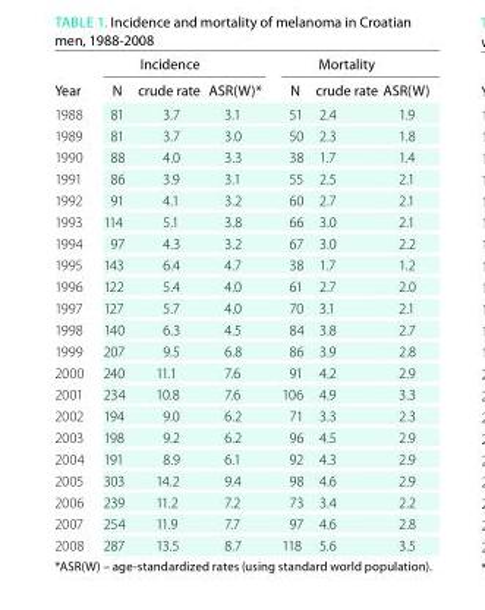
<table><thead><tr><td rowspan="2">Year</td><td colspan="3">incidence</td><td colspan="3">Mortality</td></tr><tr><td>n</td><td>crude rate</td><td>Asr(W)*</td><td>n</td><td>crude rate</td><td>Asr(W)</td></tr></thead><tbody><tr><td>1988</td><td>81</td><td>3.7</td><td>3.1</td><td>51</td><td>2.4</td><td>1.9</td></tr><tr><td>1989</td><td>81</td><td>3.7</td><td>3.0</td><td>50</td><td>2.3</td><td>1.8</td></tr><tr><td>1990</td><td>88</td><td>4.0</td><td>3.3</td><td>38</td><td>1.7</td><td>1.4</td></tr><tr><td>1991</td><td>86</td><td>3.9</td><td>3.1</td><td>55</td><td>2.5</td><td>2.1</td></tr><tr><td>1992</td><td>91</td><td>4.1</td><td>3.2</td><td>60</td><td>2.7</td><td>2.1</td></tr><tr><td>1993</td><td>114</td><td>5.1</td><td>3.8</td><td>66</td><td>3.0</td><td>2.1</td></tr><tr><td>1994</td><td>97</td><td>4.3</td><td>3.2</td><td>67</td><td>3.0</td><td>2.2</td></tr><tr><td>1995</td><td>143</td><td>6.4</td><td>4.7</td><td>38</td><td>1.7</td><td>1.2</td></tr><tr><td>1996</td><td>122</td><td>5.4</td><td>4.0</td><td>61</td><td>2.7</td><td>2.0</td></tr><tr><td>1997</td><td>127</td><td>5.7</td><td>4.0</td><td>70</td><td>3.1</td><td>2.1</td></tr><tr><td>1998</td><td>140</td><td>6.3</td><td>4.5</td><td>84</td><td>3.8</td><td>2.7</td></tr><tr><td>1999</td><td>207</td><td>9.5</td><td>6.8</td><td>86</td><td>3.9</td><td>2.8</td></tr><tr><td>2000</td><td>240</td><td>11.1</td><td>7.6</td><td>91</td><td>4.2</td><td>2.9</td></tr><tr><td>2001</td><td>234</td><td>10.8</td><td>7.6</td><td>106</td><td>4.9</td><td>3.3</td></tr><tr><td>2002</td><td>194</td><td>9.0</td><td>6.2</td><td>71</td><td>3.3</td><td>2.3</td></tr><tr><td>2003</td><td>198</td><td>9.2</td><td>6.2</td><td>96</td><td>4.5</td><td>2.9</td></tr><tr><td>2004</td><td>191</td><td>8.9</td><td>6.1</td><td>92</td><td>4.3</td><td>2.9</td></tr><tr><td>2005</td><td>303</td><td>14.2</td><td>9.4</td><td>98</td><td>4.6</td><td>2.9</td></tr><tr><td>2006</td><td>239</td><td>11.2</td><td>7.2</td><td>73</td><td>3.4</td><td>2.2</td></tr><tr><td>2007</td><td>254</td><td>11.9</td><td>7.7</td><td>97</td><td>4.6</td><td>2.8</td></tr><tr><td>2008</td><td>287</td><td>13.5</td><td>8.7</td><td>118</td><td>5.6</td><td>3.5</td></tr></tbody></table>